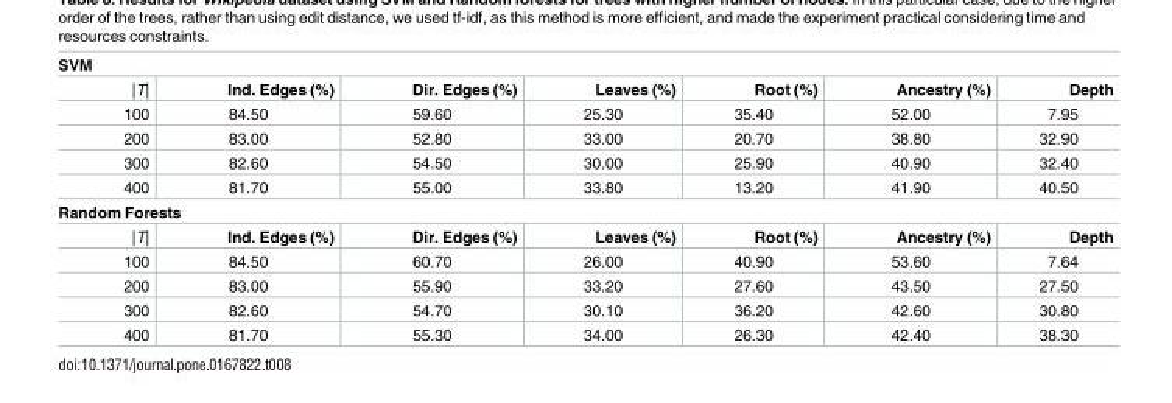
<table><tbody><tr><td colspan="7">SVM</td></tr><tr><td>|T|</td><td>Ind. Edges (%)</td><td>Dir. Edges (%)</td><td>Leaves (%)</td><td>Root (%)</td><td>Ancestry (%)</td><td>Depth</td></tr><tr><td>100</td><td>84.50</td><td>59.60</td><td>25.30</td><td>35.40</td><td>52.00</td><td>7.95</td></tr><tr><td>200</td><td>83.00</td><td>52.80</td><td>33.00</td><td>20.70</td><td>38.80</td><td>32.90</td></tr><tr><td>300</td><td>82.60</td><td>54.50</td><td>30.00</td><td>25.90</td><td>40.90</td><td>32.40</td></tr><tr><td>400</td><td>81.70</td><td>55.00</td><td>33.80</td><td>13.20</td><td>41.90</td><td>40.50</td></tr><tr><td colspan="7">Random Forests</td></tr><tr><td>|T|</td><td>Ind. Edges (%)</td><td>Dir. Edges (%)</td><td>Leaves (%)</td><td>Root (%)</td><td>Ancestry (%)</td><td>Depth</td></tr><tr><td>100</td><td>84.50</td><td>60.70</td><td>26.00</td><td>40.90</td><td>53.60</td><td>7.64</td></tr><tr><td>200</td><td>83.00</td><td>55.90</td><td>33.20</td><td>27.60</td><td>43.50</td><td>27.50</td></tr><tr><td>300</td><td>82.60</td><td>54.70</td><td>30.10</td><td>36.20</td><td>42.60</td><td>30.80</td></tr><tr><td>400</td><td>81.70</td><td>55.30</td><td>34.00</td><td>26.30</td><td>42.40</td><td>38.30</td></tr></tbody></table>